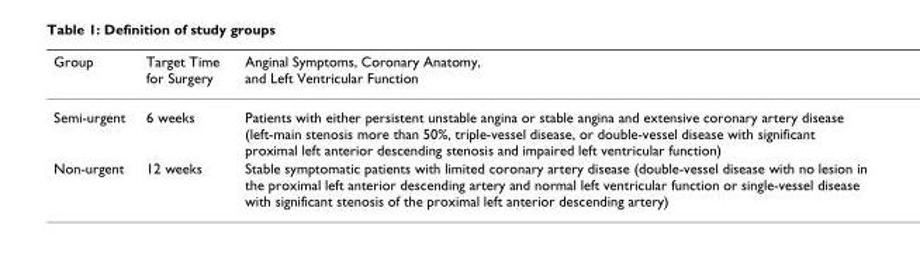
<table><thead><tr><td>Group</td><td>Target Time for Surgery</td><td>Anginal Symptoms, Coronary Anatomy, and Left Ventricular Function</td></tr></thead><tbody><tr><td>Semi-urgent</td><td>6 weeks</td><td>Patients with either persistent unstable angina or stable angina and extensive coronary artery disease (left-main stenosis more than 50%, triple-vessel disease, or double-vessel disease with significant proximal left anterior descending stenosis and impaired left ventricular function)</td></tr><tr><td>Non-urgent</td><td>12 weeks</td><td>Stable symptomatic patients with limited coronary artery disease (double-vessel disease with no lesion in the proximal left anterior descending artery and normal left ventricular function or single-vessel disease with significant stenosis of the proximal left anterior descending artery)</td></tr></tbody></table>